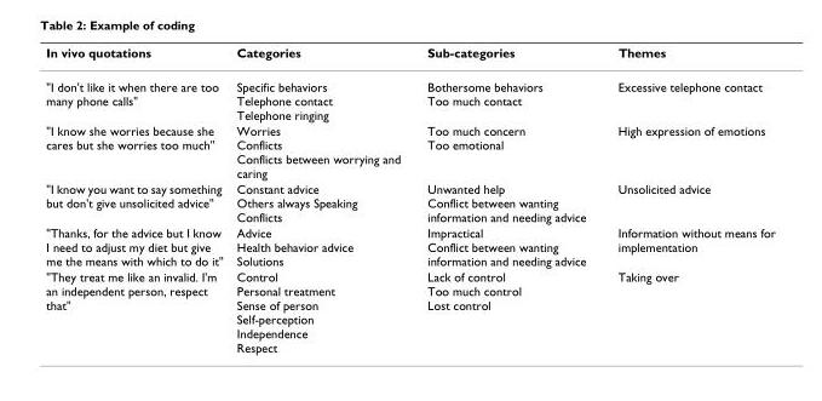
<table><thead><tr><td>In vivo quotations</td><td>Categories</td><td>Sub-categories</td><td>Themes</td></tr></thead><tbody><tr><td>&quot;I don&#x27;t like it when there are too many phone calls&quot;</td><td>Specific behaviors Telephone contact Telephone ringing</td><td>Bothersome behaviors Too much contact</td><td>Excessive telephone contact</td></tr><tr><td>&quot;I know she worries because she cares but she worries too much&quot;</td><td>Worries Conflicts Conflicts between worrying and caring</td><td>Too much concern Too emotional</td><td>High expression of emotions</td></tr><tr><td>&quot;I know you want to say something but don&#x27;t give unsolicited advice&quot;</td><td>Constant advice Others always Speaking Conflicts</td><td>Unwanted help Conflict between wanting information and needing advice</td><td>Unsolicited advice</td></tr><tr><td>&quot;Thanks, for the advice but I know I need to adjust my diet but give me the means with which to do it&quot;</td><td>Advice Health behavior advice Solutions</td><td>Impractical Conflict between wanting information and needing advice</td><td>Information without means for implementation</td></tr><tr><td>&quot;They treat me like an invalid. I&#x27;m an independent person, respect that&quot;</td><td>Control Personal treatment Sense of person Self-perception Independence Respect</td><td>Lack of control Too much control Lost control</td><td>Taking over</td></tr></tbody></table>